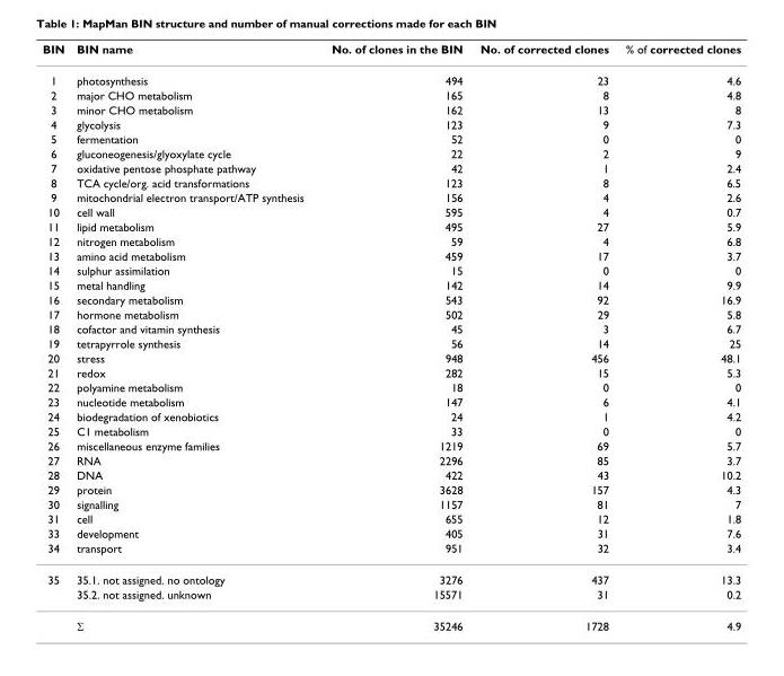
<table><thead><tr><td>BIN</td><td>BIN name</td><td>No. of clones in the BIN</td><td>No. of corrected clones</td><td>% of corrected clones</td></tr></thead><tbody><tr><td>1</td><td>photosynthesis</td><td>494</td><td>23</td><td>4.6</td></tr><tr><td>2</td><td>major CHO metabolism</td><td>165</td><td>8</td><td>4.8</td></tr><tr><td>3</td><td>minor CHO metabolism</td><td>162</td><td>13</td><td>8</td></tr><tr><td>4</td><td>glycolysis</td><td>123</td><td>9</td><td>7.3</td></tr><tr><td>5</td><td>fermentation</td><td>52</td><td>0</td><td>0</td></tr><tr><td>6</td><td>gluconeogenesis/glyoxylate cycle</td><td>22</td><td>2</td><td>9</td></tr><tr><td>7</td><td>oxidative pentose phosphate pathway</td><td>42</td><td>1</td><td>2.4</td></tr><tr><td>8</td><td>TCA cycle/org. acid transformations</td><td>123</td><td>8</td><td>6.5</td></tr><tr><td>9</td><td>mitochondrial electron transport/ATP synthesis</td><td>156</td><td>4</td><td>2.6</td></tr><tr><td>10</td><td>cell wall</td><td>595</td><td>4</td><td>0.7</td></tr><tr><td>11</td><td>lipid metabolism</td><td>495</td><td>27</td><td>5.9</td></tr><tr><td>12</td><td>nitrogen metabolism</td><td>59</td><td>4</td><td>6.8</td></tr><tr><td>13</td><td>amino acid metabolism</td><td>459</td><td>17</td><td>3.7</td></tr><tr><td>14</td><td>sulphur assimilation</td><td>15</td><td>0</td><td>0</td></tr><tr><td>15</td><td>metal handling</td><td>142</td><td>14</td><td>9.9</td></tr><tr><td>16</td><td>secondary metabolism</td><td>543</td><td>92</td><td>16.9</td></tr><tr><td>17</td><td>hormone metabolism</td><td>502</td><td>29</td><td>5.8</td></tr><tr><td>18</td><td>cofactor and vitamin synthesis</td><td>45</td><td>3</td><td>6.7</td></tr><tr><td>19</td><td>tetrapyrrole synthesis</td><td>56</td><td>14</td><td>25</td></tr><tr><td>20</td><td>stress</td><td>948</td><td>456</td><td>48.1</td></tr><tr><td>21</td><td>redox</td><td>282</td><td>15</td><td>5.3</td></tr><tr><td>22</td><td>polyamine metabolism</td><td>18</td><td>0</td><td>0</td></tr><tr><td>23</td><td>nucleotide metabolism</td><td>147</td><td>6</td><td>4.1</td></tr><tr><td>24</td><td>biodegradation of xenobiotics</td><td>24</td><td>1</td><td>4.2</td></tr><tr><td>25</td><td>C1 metabolism</td><td>33</td><td>0</td><td>0</td></tr><tr><td>26</td><td>miscellaneous enzyme families</td><td>1219</td><td>69</td><td>5.7</td></tr><tr><td>27</td><td>RNA</td><td>2296</td><td>85</td><td>3.7</td></tr><tr><td>28</td><td>DNA</td><td>422</td><td>43</td><td>10.2</td></tr><tr><td>29</td><td>protein</td><td>3628</td><td>157</td><td>4.3</td></tr><tr><td>30</td><td>signalling</td><td>1157</td><td>81</td><td>7</td></tr><tr><td>31</td><td>cell</td><td>655</td><td>12</td><td>1.8</td></tr><tr><td>33</td><td>development</td><td>405</td><td>31</td><td>7.6</td></tr><tr><td>34</td><td>transport</td><td>951</td><td>32</td><td>3.4</td></tr><tr><td rowspan="3">35</td><td>35.1. not assigned. no ontology</td><td>3276</td><td>437</td><td>13.3</td></tr><tr><td>35.2. not assigned. unknown</td><td>15571</td><td>31</td><td>0.2</td></tr><tr><td>Σ</td><td>35246</td><td>1728</td><td>4.9</td></tr></tbody></table>